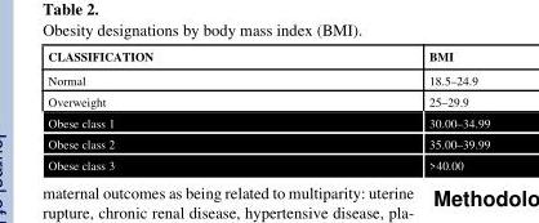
<table><thead><tr><td>CLASSIFICATION</td><td>BMI</td></tr></thead><tbody><tr><td>Normal</td><td>18.5–24.9</td></tr><tr><td>Overweight</td><td>25–29.9</td></tr><tr><td>Obese class 1</td><td>30.00–34.99</td></tr><tr><td>Obese class 2</td><td>35.00–39.99</td></tr><tr><td>Obese class 3</td><td>&gt;40.00</td></tr></tbody></table>